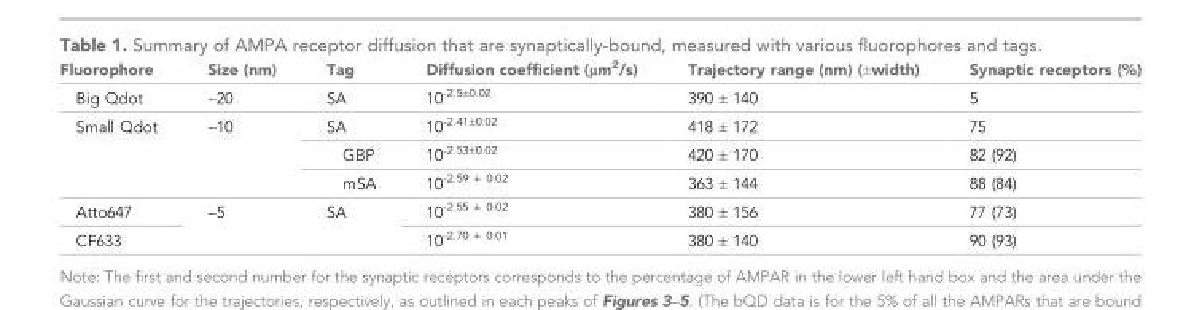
<table><thead><tr><td>Fluorophore</td><td>Size (nm)</td><td>Tag</td><td>Diffusion coefficient (μm<sup>2</sup>/s)</td><td>Trajectory range (nm) (±width)</td><td>Synaptic receptors (%)</td></tr></thead><tbody><tr><td>Big Qdot</td><td>~20</td><td>SA</td><td>10<sup>-2.5±0.02</sup></td><td>390 ± 140</td><td>5</td></tr><tr><td rowspan="3">Small Qdot</td><td rowspan="3">~10</td><td>SA</td><td>10<sup>-2.41±0.02</sup></td><td>418 ± 172</td><td>75</td></tr><tr><td>GBP</td><td>10<sup>-2.53±0.02</sup></td><td>420 ± 170</td><td>82 (92)</td></tr><tr><td>mSA</td><td>10<sup>-2.59 ± 0.02</sup></td><td>363 ± 144</td><td>88 (84)</td></tr><tr><td>Atto647</td><td rowspan="2">~5</td><td rowspan="2">SA</td><td>10<sup>-2.55 ± 0.02</sup></td><td>380 ± 156</td><td>77 (73)</td></tr><tr><td>CF633</td><td>10<sup>-2.70 ± 0.01</sup></td><td>380 ± 140</td><td>90 (93)</td></tr></tbody></table>